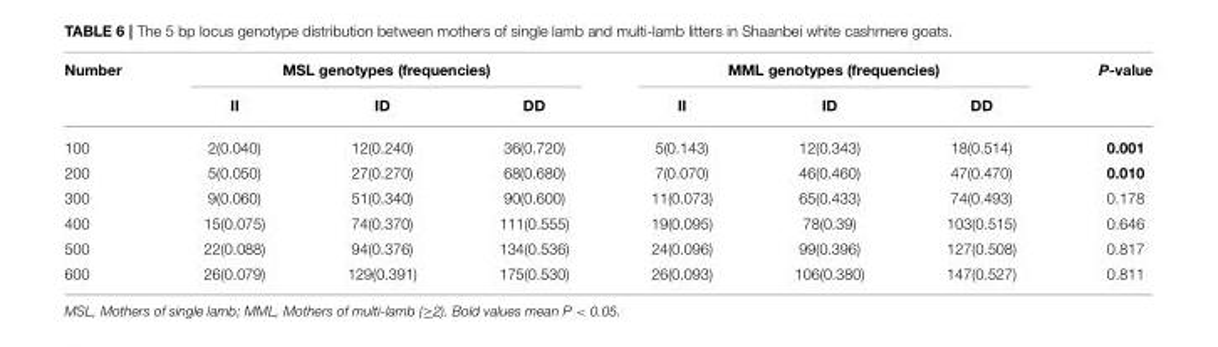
<table><thead><tr><td rowspan="2">Number</td><td colspan="3">MSL genotypes (frequencies)</td><td colspan="3">MML genotypes (frequencies)</td><td rowspan="2">P-value</td></tr><tr><td>II</td><td>ID</td><td>DD</td><td>II</td><td>ID</td><td>DD</td></tr></thead><tbody><tr><td>100</td><td>2(0.040)</td><td>12(0.240)</td><td>36(0.720)</td><td>5(0.143)</td><td>12(0.343)</td><td>18(0.514)</td><td>0.001</td></tr><tr><td>200</td><td>5(0.050)</td><td>27(0.270)</td><td>68(0.680)</td><td>7(0.070)</td><td>46(0.460)</td><td>47(0.470)</td><td>0.010</td></tr><tr><td>300</td><td>9(0.060)</td><td>51(0.340)</td><td>90(0.600)</td><td>11(0.073)</td><td>65(0.433)</td><td>74(0.493)</td><td>0.178</td></tr><tr><td>400</td><td>15(0.075)</td><td>74(0.370)</td><td>111(0.555)</td><td>19(0.095)</td><td>78(0.39)</td><td>103(0.515)</td><td>0.646</td></tr><tr><td>500</td><td>22(0.088)</td><td>94(0.376)</td><td>134(0.536)</td><td>24(0.096)</td><td>99(0.396)</td><td>127(0.508)</td><td>0.817</td></tr><tr><td>600</td><td>26(0.079)</td><td>129(0.391)</td><td>175(0.530)</td><td>26(0.093)</td><td>106(0.380)</td><td>147(0.527)</td><td>0.811</td></tr></tbody></table>